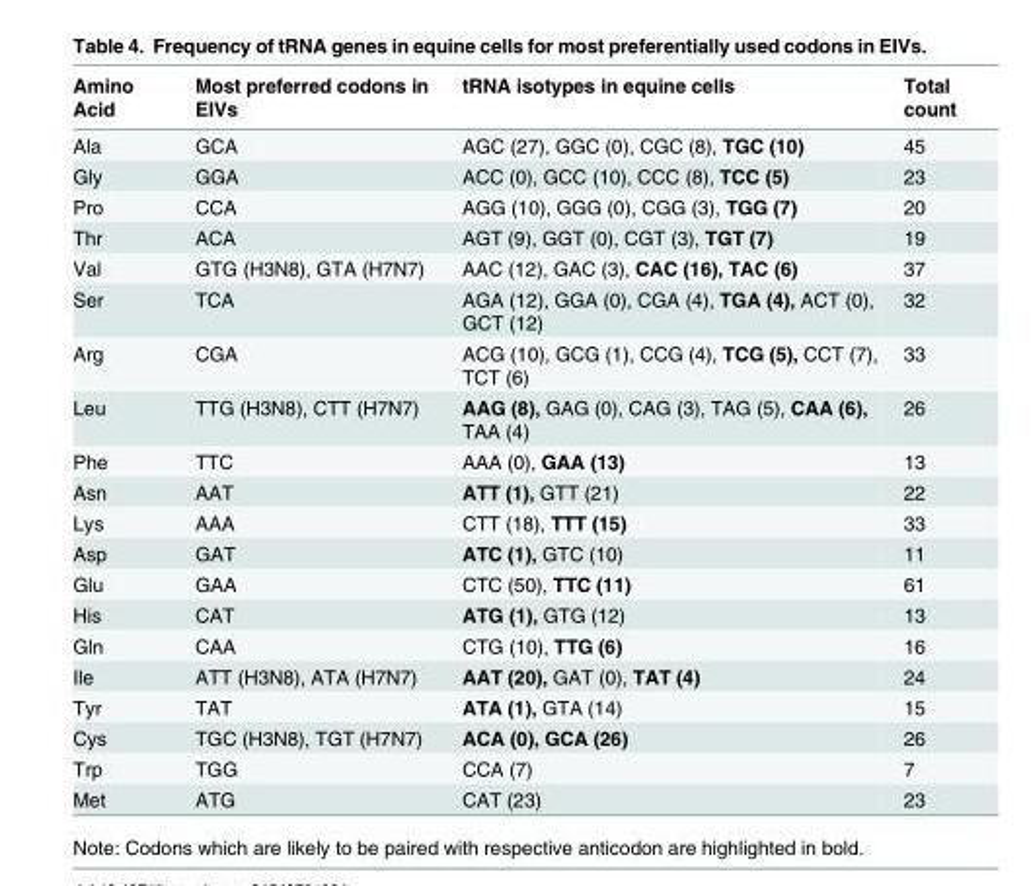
<table><thead><tr><td>Amino Acid</td><td>Most preferred codons in EIVs</td><td>tRNA isotypes in equine cells</td><td>Total count</td></tr></thead><tbody><tr><td>Ala</td><td>GCA</td><td>AGC (27), GGC (0), CGC (8), TGC (10)</td><td>45</td></tr><tr><td>Gly</td><td>GGA</td><td>ACC (0), GCC (10), CCC (8), TCC (5)</td><td>23</td></tr><tr><td>Pro</td><td>CCA</td><td>AGG (10), GGG (0), CGG (3), TGG (7)</td><td>20</td></tr><tr><td>Thr</td><td>ACA</td><td>AGT (9), GGT (0), CGT (3), TGT (7)</td><td>19</td></tr><tr><td>Val</td><td>GTG (H3N8), GTA (H7N7)</td><td>AAC (12), GAC (3), CAC (16), TAC (6)</td><td>37</td></tr><tr><td>Ser</td><td>TCA</td><td>AGA (12), GGA (0), CGA (4), TGA (4), ACT (0), GCT (12)</td><td>32</td></tr><tr><td>Arg</td><td>CGA</td><td>ACG (10), GCG (1), CCG (4), TCG (5), CCT (7), TCT (6)</td><td>33</td></tr><tr><td>Leu</td><td>TTG (H3N8), CTT (H7N7)</td><td>AAG (8), GAG (0), CAG (3), TAG (5), CAA (6), TAA (4)</td><td>26</td></tr><tr><td>Phe</td><td>TTC</td><td>AAA (0), GAA (13)</td><td>13</td></tr><tr><td>Asn</td><td>AAT</td><td>ATT (1), GTT (21)</td><td>22</td></tr><tr><td>Lys</td><td>AAA</td><td>CTT (18), TTT (15)</td><td>33</td></tr><tr><td>Asp</td><td>GAT</td><td>ATC (1), GTC (10)</td><td>11</td></tr><tr><td>Glu</td><td>GAA</td><td>CTC (50), TTC (11)</td><td>61</td></tr><tr><td>His</td><td>CAT</td><td>ATG (1), GTG (12)</td><td>13</td></tr><tr><td>Gln</td><td>CAA</td><td>CTG (10), TTG (6)</td><td>16</td></tr><tr><td>Ile</td><td>ATT (H3N8), ATA (H7N7)</td><td>AAT (20), GAT (0), TAT (4)</td><td>24</td></tr><tr><td>Tyr</td><td>TAT</td><td>ATA (1), GTA (14)</td><td>15</td></tr><tr><td>Cys</td><td>TGC (H3N8), TGT (H7N7)</td><td>ACA (0), GCA (26)</td><td>26</td></tr><tr><td>Trp</td><td>TGG</td><td>CCA (7)</td><td>7</td></tr><tr><td>Met</td><td>ATG</td><td>CAT (23)</td><td>23</td></tr></tbody></table>